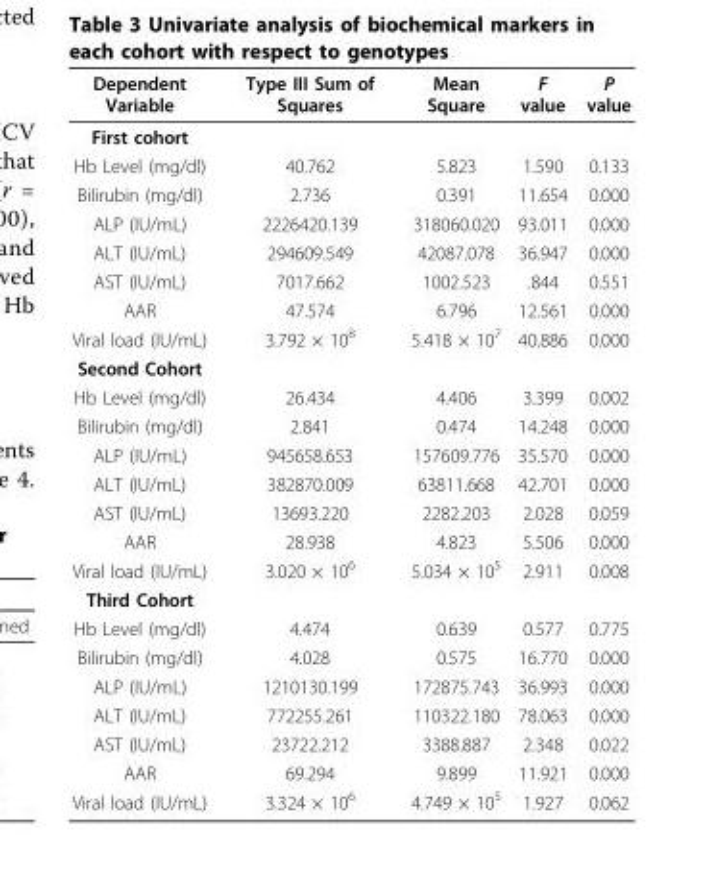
<table><thead><tr><td>Dependent Variable</td><td>Type III Sum of Squares</td><td>Mean Square</td><td>F value</td><td>P value</td></tr></thead><tbody><tr><td colspan="5">First cohort</td></tr><tr><td>Hb Level (mg/dl)</td><td>40.762</td><td>5.823</td><td>1.590</td><td>0.133</td></tr><tr><td>Bilirubin (mg/dl)</td><td>2.736</td><td>0.391</td><td>11.654</td><td>0.000</td></tr><tr><td>ALP (IU/mL)</td><td>2226420.139</td><td>318060.020</td><td>93.011</td><td>0.000</td></tr><tr><td>ALT (IU/mL)</td><td>294609.549</td><td>42087.078</td><td>36.947</td><td>0.000</td></tr><tr><td>AST (IU/mL)</td><td>7017.662</td><td>1002.523</td><td>.844</td><td>0.551</td></tr><tr><td>AAR</td><td>47.574</td><td>6.796</td><td>12.561</td><td>0.000</td></tr><tr><td>Viral load (IU/mL)</td><td>3.792 × 10<sup>8</sup></td><td>5.418 × 10<sup>7</sup></td><td>40.886</td><td>0.000</td></tr><tr><td colspan="5">Second Cohort</td></tr><tr><td>Hb Level (mg/dl)</td><td>26.434</td><td>4.406</td><td>3.399</td><td>0.002</td></tr><tr><td>Bilirubin (mg/dl)</td><td>2.841</td><td>0.474</td><td>14.248</td><td>0.000</td></tr><tr><td>ALP (IU/mL)</td><td>945658.653</td><td>157609.776</td><td>35.570</td><td>0.000</td></tr><tr><td>ALT (IU/mL)</td><td>382870.009</td><td>63811.668</td><td>42.701</td><td>0.000</td></tr><tr><td>AST (IU/mL)</td><td>13693.220</td><td>2282.203</td><td>2.028</td><td>0.059</td></tr><tr><td>AAR</td><td>28.938</td><td>4.823</td><td>5.506</td><td>0.000</td></tr><tr><td>Viral load (IU/mL)</td><td>3.020 × 10<sup>6</sup></td><td>5.034 × 10<sup>5</sup></td><td>2.911</td><td>0.008</td></tr><tr><td colspan="5">Third Cohort</td></tr><tr><td>Hb Level (mg/dl)</td><td>4.474</td><td>0.639</td><td>0.577</td><td>0.775</td></tr><tr><td>Bilirubin (mg/dl)</td><td>4.028</td><td>0.575</td><td>16.770</td><td>0.000</td></tr><tr><td>ALP (IU/mL)</td><td>1210130.199</td><td>172875.743</td><td>36.993</td><td>0.000</td></tr><tr><td>ALT (IU/mL)</td><td>772255.261</td><td>110322.180</td><td>78.063</td><td>0.000</td></tr><tr><td>AST (IU/mL)</td><td>23722.212</td><td>3388.887</td><td>2.348</td><td>0.022</td></tr><tr><td>AAR</td><td>69.294</td><td>9.899</td><td>11.921</td><td>0.000</td></tr><tr><td>Viral load (IU/mL)</td><td>3.324 × 10<sup>6</sup></td><td>4.749 × 10<sup>5</sup></td><td>1.927</td><td>0.062</td></tr></tbody></table>